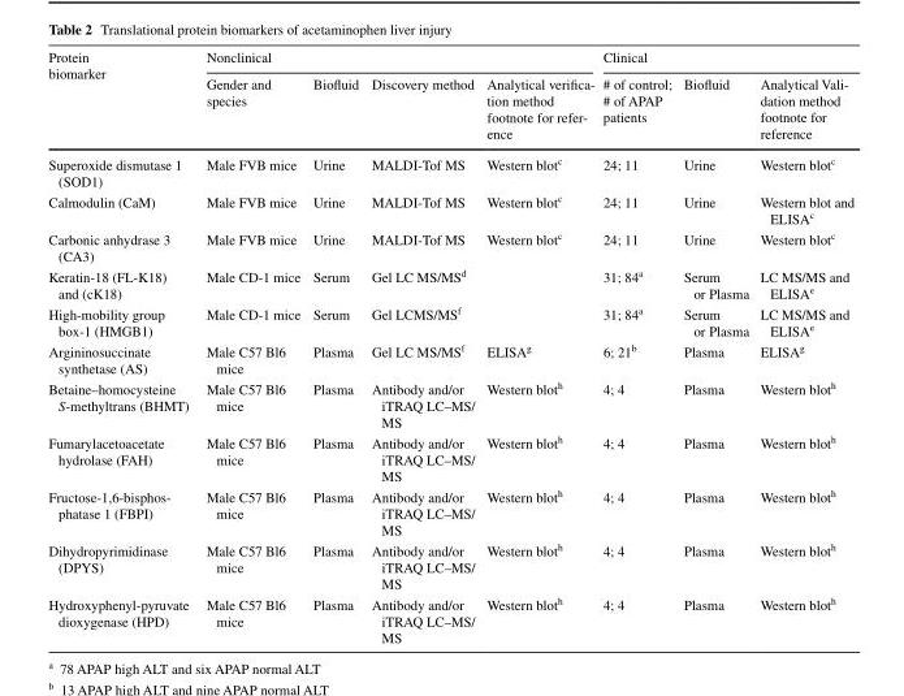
<table><thead><tr><td rowspan="2">Protein biomarker</td><td colspan="4">Nonclinical</td><td colspan="3">Clinical</td></tr><tr><td>Gender and species</td><td>Biofluid</td><td>Discovery method</td><td>Analytical verifica- tion method footnote for refer- ence</td><td># of control; # of APAP patients</td><td>Biofluid</td><td>Analytical Vali- dation method footnote for reference</td></tr></thead><tbody><tr><td>Superoxide dismutase 1 (SOD1)</td><td>Male FVB mice</td><td>Urine</td><td>MALDI-Tof MS</td><td>Western blot<sup>c</sup></td><td>24; 11</td><td>Urine</td><td>Western blot<sup>c</sup></td></tr><tr><td>Calmodulin (CaM)</td><td>Male FVB mice</td><td>Urine</td><td>MALDI-Tof MS</td><td>Western blot<sup>c</sup></td><td>24; 11</td><td>Urine</td><td>Western blot and ELISA<sup>c</sup></td></tr><tr><td>Carbonic anhydrase 3 (CA3)</td><td>Male FVB mice</td><td>Urine</td><td>MALDI-Tof MS</td><td>Western blot<sup>c</sup></td><td>24; 11</td><td>Urine</td><td>Western blot<sup>c</sup></td></tr><tr><td>Keratin-18 (FL-K18) and (cK18)</td><td>Male CD-1 mice</td><td>Serum</td><td>Gel LC MS/MS<sup>d</sup></td><td></td><td>31; 84<sup>a</sup></td><td>Serum or Plasma</td><td>LC MS/MS and ELISA<sup>e</sup></td></tr><tr><td>High-mobility group box-1 (HMGB1)</td><td>Male CD-1 mice</td><td>Serum</td><td>Gel LCMS/MS<sup>f</sup></td><td></td><td>31; 84<sup>a</sup></td><td>Serum or Plasma</td><td>LC MS/MS and ELISA<sup>e</sup></td></tr><tr><td>Argininosuccinate synthetase (AS)</td><td>Male C57 Bl6 mice</td><td>Plasma</td><td>Gel LC MS/MS<sup>f</sup></td><td>ELISA<sup>g</sup></td><td>6; 21<sup>b</sup></td><td>Plasma</td><td>ELISA<sup>g</sup></td></tr><tr><td>Betaine–homocysteine S-methyltrans (BHMT)</td><td>Male C57 Bl6 mice</td><td>Plasma</td><td>Antibody and/or iTRAQ LC–MS/ MS</td><td>Western blot<sup>h</sup></td><td>4; 4</td><td>Plasma</td><td>Western blot<sup>h</sup></td></tr><tr><td>Fumarylacetoacetate hydrolase (FAH)</td><td>Male C57 Bl6 mice</td><td>Plasma</td><td>Antibody and/or iTRAQ LC–MS/ MS</td><td>Western blot<sup>h</sup></td><td>4; 4</td><td>Plasma</td><td>Western blot<sup>h</sup></td></tr><tr><td>Fructose-1,6-bisphos- phatase 1 (FBPI)</td><td>Male C57 Bl6 mice</td><td>Plasma</td><td>Antibody and/or iTRAQ LC–MS/ MS</td><td>Western blot<sup>h</sup></td><td>4; 4</td><td>Plasma</td><td>Western blot<sup>h</sup></td></tr><tr><td>Dihydropyrimidinase (DPYS)</td><td>Male C57 Bl6 mice</td><td>Plasma</td><td>Antibody and/or iTRAQ LC–MS/ MS</td><td>Western blot<sup>h</sup></td><td>4; 4</td><td>Plasma</td><td>Western blot<sup>h</sup></td></tr><tr><td>Hydroxyphenyl-pyruvate dioxygenase (HPD)</td><td>Male C57 Bl6 mice</td><td>Plasma</td><td>Antibody and/or iTRAQ LC–MS/ MS</td><td>Western blot<sup>h</sup></td><td>4; 4</td><td>Plasma</td><td>Western blot<sup>h</sup></td></tr></tbody></table>